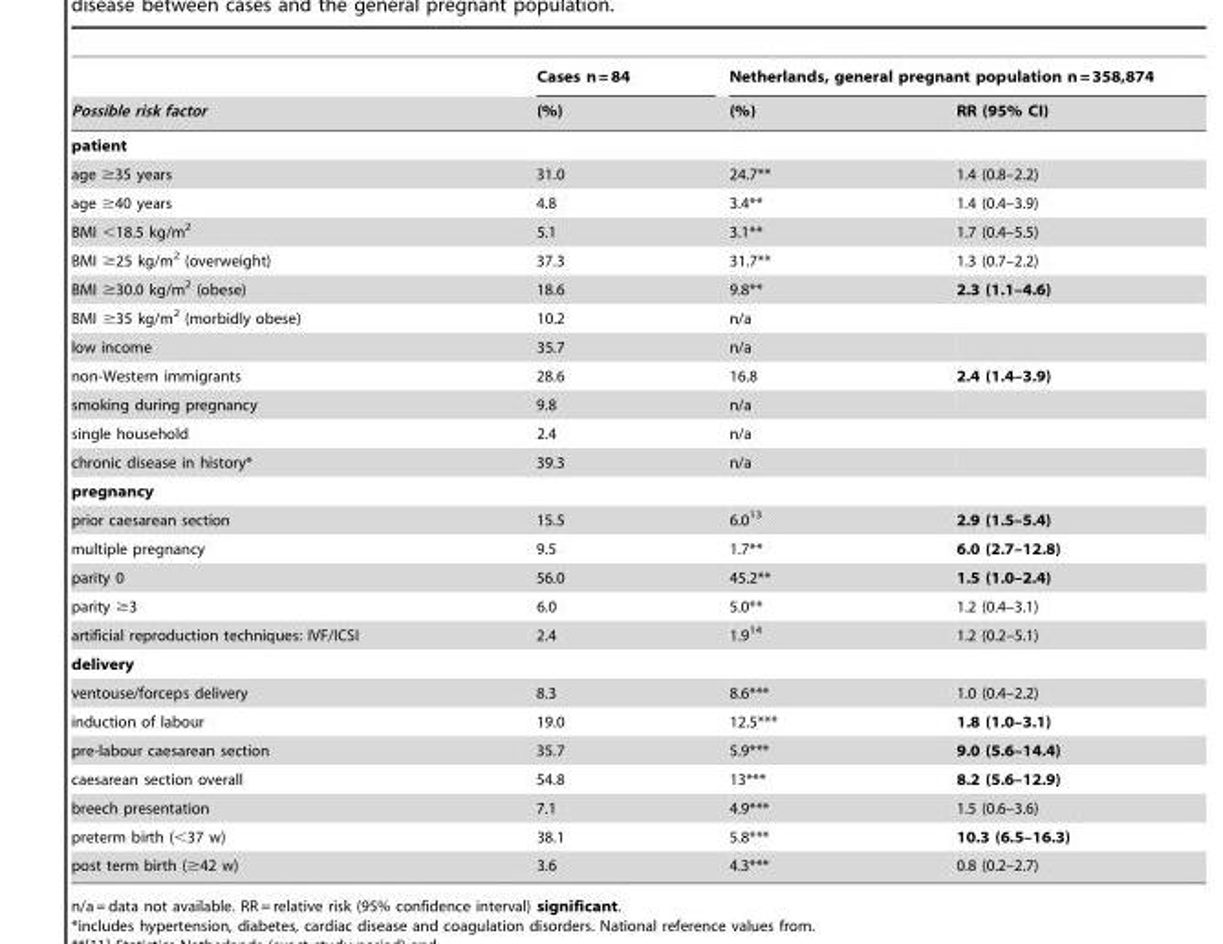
<table><thead><tr><td rowspan="2">Possible risk factor</td><td rowspan="2">Cases n = 84 (%)</td><td colspan="2">Netherlands, general pregnant population n = 358,874</td></tr><tr><td>(%)</td><td>RR (95% CI)</td></tr></thead><tbody><tr><td colspan="4">patient</td></tr><tr><td>age ≥35 years</td><td>31.0</td><td>24.7**</td><td>1.4 (0.8–2.2)</td></tr><tr><td>age ≥40 years</td><td>4.8</td><td>3.4**</td><td>1.4 (0.4–3.9)</td></tr><tr><td>BMI &lt;18.5 kg/m<sup>2</sup></td><td>5.1</td><td>3.1**</td><td>1.7 (0.4–5.5)</td></tr><tr><td>BMI ≥25 kg/m<sup>2</sup> (overweight)</td><td>37.3</td><td>31.7**</td><td>1.3 (0.7–2.2)</td></tr><tr><td>BMI ≥30.0 kg/m<sup>2</sup> (obese)</td><td>18.6</td><td>9.8**</td><td>2.3 (1.1–4.6)</td></tr><tr><td>BMI ≥35 kg/m<sup>2</sup> (morbidly obese)</td><td>10.2</td><td>n/a</td><td></td></tr><tr><td>low income</td><td>35.7</td><td>n/a</td><td></td></tr><tr><td>non-Western immigrants</td><td>28.6</td><td>16.8</td><td>2.4 (1.4–3.9)</td></tr><tr><td>smoking during pregnancy</td><td>9.8</td><td>n/a</td><td></td></tr><tr><td>single household</td><td>2.4</td><td>n/a</td><td></td></tr><tr><td>chronic disease in history*</td><td>39.3</td><td>n/a</td><td></td></tr><tr><td colspan="4">pregnancy</td></tr><tr><td>prior caesarean section</td><td>15.5</td><td>6.0<sup>13</sup></td><td>2.9 (1.5–5.4)</td></tr><tr><td>multiple pregnancy</td><td>9.5</td><td>1.7**</td><td>6.0 (2.7–12.8)</td></tr><tr><td>parity 0</td><td>56.0</td><td>45.2**</td><td>1.5 (1.0–2.4)</td></tr><tr><td>parity ≥3</td><td>6.0</td><td>5.0**</td><td>1.2 (0.4–3.1)</td></tr><tr><td>artificial reproduction techniques: IVF/ICSI</td><td>2.4</td><td>1.9<sup>14</sup></td><td>1.2 (0.2–5.1)</td></tr><tr><td colspan="4">delivery</td></tr><tr><td>ventouse/forceps delivery</td><td>8.3</td><td>8.6***</td><td>1.0 (0.4–2.2)</td></tr><tr><td>induction of labour</td><td>19.0</td><td>12.5***</td><td>1.8 (1.0–3.1)</td></tr><tr><td>pre-labour caesarean section</td><td>35.7</td><td>5.9***</td><td>9.0 (5.6–14.4)</td></tr><tr><td>caesarean section overall</td><td>54.8</td><td>13***</td><td>8.2 (5.6–12.9)</td></tr><tr><td>breech presentation</td><td>7.1</td><td>4.9***</td><td>1.5 (0.6–3.6)</td></tr><tr><td>preterm birth (&lt;37 w)</td><td>38.1</td><td>5.8***</td><td>10.3 (6.5–16.3)</td></tr><tr><td>post term birth (≥42 w)</td><td>3.6</td><td>4.3***</td><td>0.8 (0.2–2.7)</td></tr></tbody></table>